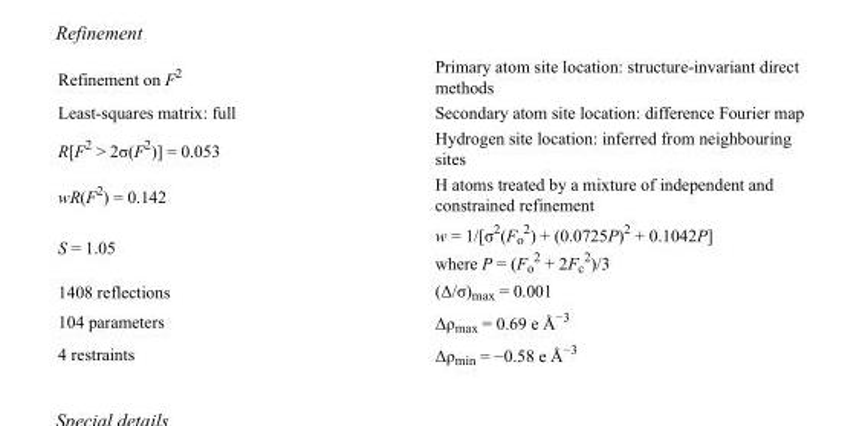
<table><tbody><tr><td>Refinement on F<sup>2</sup></td><td>Primary atom site location: structure-invariant direct methods</td></tr><tr><td>Least-squares matrix: full</td><td>Secondary atom site location: difference Fourier map</td></tr><tr><td>R[F<sup>2</sup> &gt; 2σ(F<sup>2</sup>)] = 0.053</td><td>Hydrogen site location: inferred from neighbouring sites</td></tr><tr><td>wR(F<sup>2</sup>) = 0.142</td><td>H atoms treated by a mixture of independent and constrained refinement</td></tr><tr><td>S = 1.05</td><td>w = 1/[σ<sup>2</sup>(F<sub>o</sub> <sup>2</sup>) + (0.0725P)<sup>2</sup> + 0.1042P] where P = (F<sub>o</sub> <sup>2</sup> + 2F<sub>c</sub> <sup>2</sup>)/3</td></tr><tr><td>1408 reflections</td><td>(Δ/σ)<sub>max</sub> = 0.001</td></tr><tr><td>104 parameters</td><td>Δρ<sub>max</sub> = 0.69 e Å<sup>−3</sup></td></tr><tr><td>4 restraints</td><td>Δρ<sub>min</sub> = −0.58 e Å<sup>−3</sup></td></tr></tbody></table>